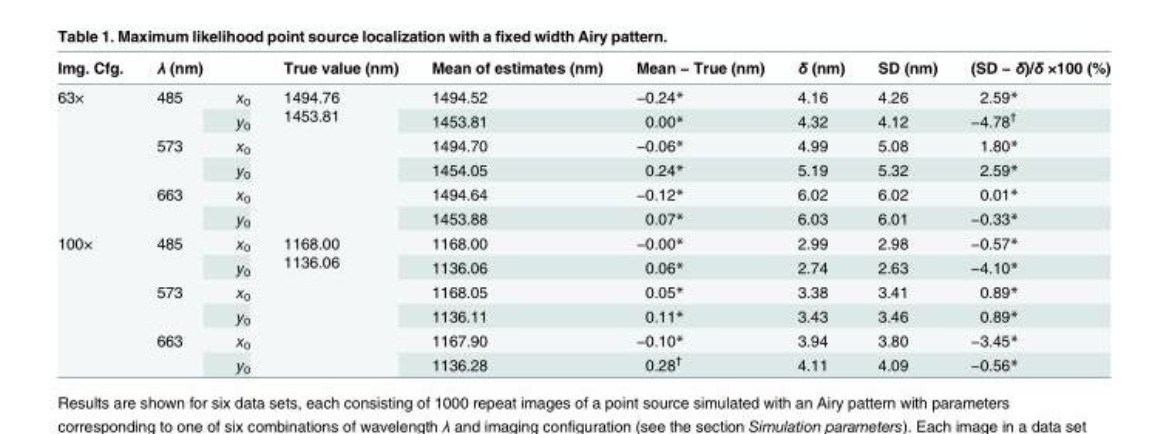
<table><thead><tr><td>Img. Cfg.</td><td>λ (nm)</td><td></td><td>True value (nm)</td><td>Mean of estimates (nm)</td><td>Mean − True (nm)</td><td>δ (nm)</td><td>SD (nm)</td><td>(SD − δ)/δ ×100 (%)</td></tr></thead><tbody><tr><td rowspan="6">63×</td><td rowspan="2">485</td><td>x<sub>0</sub></td><td rowspan="6">1494.76 1453.81</td><td>1494.52</td><td>−0.24*</td><td>4.16</td><td>4.26</td><td>2.59*</td></tr><tr><td>y<sub>0</sub></td><td>1453.81</td><td>0.00*</td><td>4.32</td><td>4.12</td><td>−4.78<sup>†</sup></td></tr><tr><td rowspan="2">573</td><td>x<sub>0</sub></td><td>1494.70</td><td>−0.06*</td><td>4.99</td><td>5.08</td><td>1.80*</td></tr><tr><td>y<sub>0</sub></td><td>1454.05</td><td>0.24*</td><td>5.19</td><td>5.32</td><td>2.59*</td></tr><tr><td rowspan="2">663</td><td>x<sub>0</sub></td><td>1494.64</td><td>−0.12*</td><td>6.02</td><td>6.02</td><td>0.01*</td></tr><tr><td>y<sub>0</sub></td><td>1453.88</td><td>0.07*</td><td>6.03</td><td>6.01</td><td>−0.33*</td></tr><tr><td rowspan="6">100×</td><td rowspan="2">485</td><td>x<sub>0</sub></td><td rowspan="6">1168.00 1136.06</td><td>1168.00</td><td>−0.00*</td><td>2.99</td><td>2.98</td><td>−0.57*</td></tr><tr><td>y<sub>0</sub></td><td>1136.06</td><td>0.06*</td><td>2.74</td><td>2.63</td><td>−4.10*</td></tr><tr><td rowspan="2">573</td><td>x<sub>0</sub></td><td>1168.05</td><td>0.05*</td><td>3.38</td><td>3.41</td><td>0.89*</td></tr><tr><td>y<sub>0</sub></td><td>1136.11</td><td>0.11*</td><td>3.43</td><td>3.46</td><td>0.89*</td></tr><tr><td rowspan="2">663</td><td>x<sub>0</sub></td><td>1167.90</td><td>−0.10*</td><td>3.94</td><td>3.80</td><td>−3.45*</td></tr><tr><td>y<sub>0</sub></td><td>1136.28</td><td>0.28<sup>†</sup></td><td>4.11</td><td>4.09</td><td>−0.56*</td></tr></tbody></table>